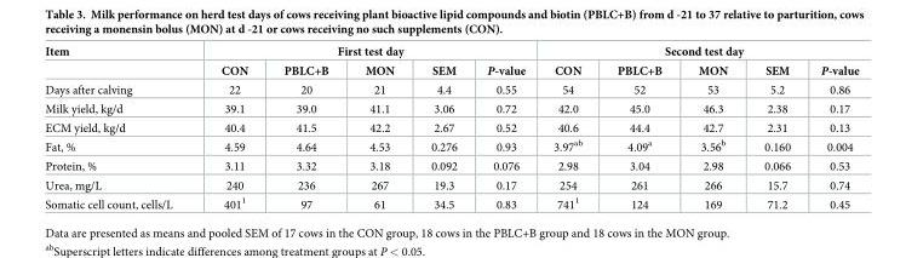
<table><thead><tr><td rowspan="2">Item</td><td rowspan="2">CON</td><td colspan="3">First test day</td><td rowspan="2">P-value</td><td rowspan="2">CON</td><td colspan="3">Second test day</td><td rowspan="2">P-value</td></tr><tr><td>PBLC+B</td><td>MON</td><td>SEM</td><td>PBLC+B</td><td>MON</td><td>SEM</td></tr></thead><tbody><tr><td>Days after calving</td><td>22</td><td>20</td><td>21</td><td>4.4</td><td>0.55</td><td>54</td><td>52</td><td>53</td><td>5.2</td><td>0.86</td></tr><tr><td>Milk yield, kg/d</td><td>39.1</td><td>39.0</td><td>41.1</td><td>3.06</td><td>0.72</td><td>42.0</td><td>45.0</td><td>46.3</td><td>2.38</td><td>0.17</td></tr><tr><td>ECM yield, kg/d</td><td>40.4</td><td>41.5</td><td>42.2</td><td>2.67</td><td>0.52</td><td>40.6</td><td>44.4</td><td>42.7</td><td>2.31</td><td>0.13</td></tr><tr><td>Fat, %</td><td>4.59</td><td>4.64</td><td>4.53</td><td>0.276</td><td>0.93</td><td>3.97<sup>ab</sup></td><td>4.09<sup>a</sup></td><td>3.56<sup>b</sup></td><td>0.160</td><td>0.004</td></tr><tr><td>Protein, %</td><td>3.11</td><td>3.32</td><td>3.18</td><td>0.092</td><td>0.076</td><td>2.98</td><td>3.04</td><td>2.98</td><td>0.066</td><td>0.53</td></tr><tr><td>Urea, mg/L</td><td>240</td><td>236</td><td>267</td><td>19.3</td><td>0.17</td><td>254</td><td>261</td><td>266</td><td>15.7</td><td>0.74</td></tr><tr><td>Somatic cell count, cells/L</td><td>401<sup>1</sup></td><td>97</td><td>61</td><td>34.5</td><td>0.83</td><td>741<sup>1</sup></td><td>124</td><td>169</td><td>71.2</td><td>0.45</td></tr></tbody></table>